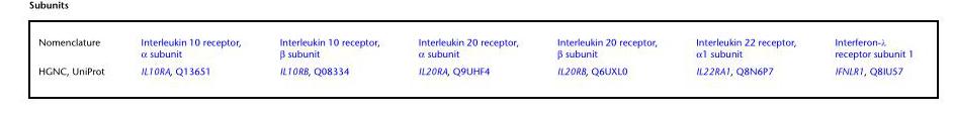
<table><tbody><tr><td>Nomenclature</td><td>Interleukin 10 receptor, α subunit</td><td>Interleukin 10 receptor, β subunit</td><td>Interleukin 20 receptor, α subunit</td><td>Interleukin 20 receptor, β subunit</td><td>Interleukin 22 receptor, α1 subunit</td><td>Interferon- receptor subunit 1</td></tr><tr><td>HGNC, UniProt</td><td>IL10RA, Q13651</td><td>IL10RB, Q08334</td><td>IL20RA, Q9UHF4</td><td>IL20RB, Q6UXL0</td><td>IL22RA1, Q8N6P7</td><td>IFNLR1, Q8IU57</td></tr></tbody></table>